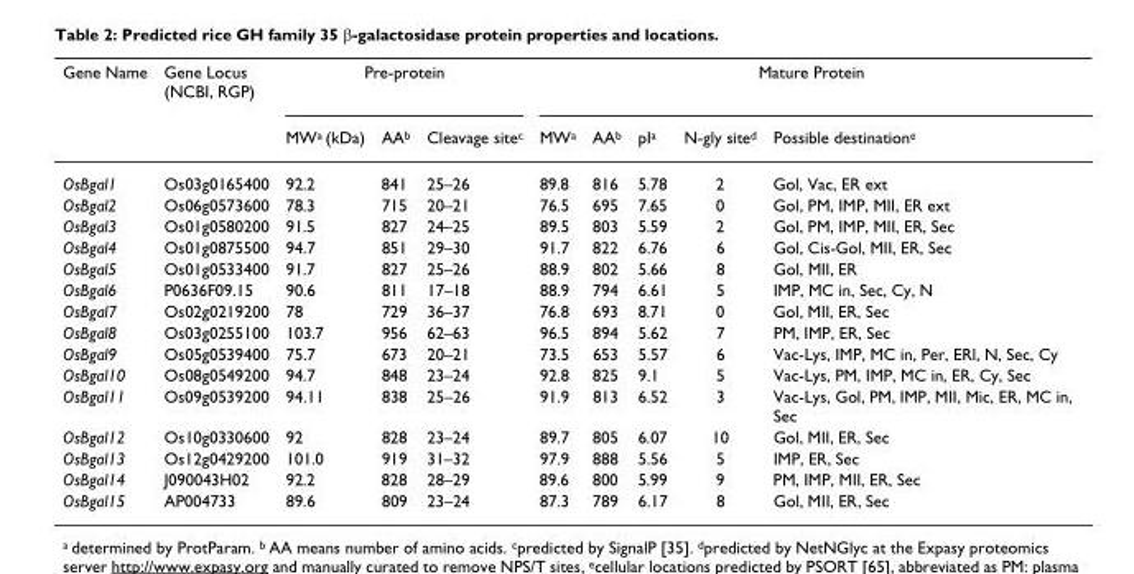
<table><thead><tr><td rowspan="2">Gene Name</td><td rowspan="2">Gene Locus (NCBI, RGP)</td><td colspan="3">Pre-protein</td><td colspan="5">Mature Protein</td></tr><tr><td>MW<sup>a</sup> (kDa)</td><td>AA<sup>b</sup></td><td>Cleavage site<sup>c</sup></td><td>MW<sup>a</sup></td><td>AA<sup>b</sup></td><td>pI<sup>a</sup></td><td>N-gly site<sup>d</sup></td><td>Possible destination<sup>e</sup></td></tr></thead><tbody><tr><td>OsBgal1</td><td>Os03g0165400</td><td>92.2</td><td>841</td><td>25–26</td><td>89.8</td><td>816</td><td>5.78</td><td>2</td><td>Gol, Vac, ER ext</td></tr><tr><td>OsBgal2</td><td>Os06g0573600</td><td>78.3</td><td>715</td><td>20–21</td><td>76.5</td><td>695</td><td>7.65</td><td>0</td><td>Gol, PM, IMP, MII, ER ext</td></tr><tr><td>OsBgal3</td><td>Os01g0580200</td><td>91.5</td><td>827</td><td>24–25</td><td>89.5</td><td>803</td><td>5.59</td><td>2</td><td>Gol, PM, IMP, MII, ER, Sec</td></tr><tr><td>OsBgal4</td><td>Os01g0875500</td><td>94.7</td><td>851</td><td>29–30</td><td>91.7</td><td>822</td><td>6.76</td><td>6</td><td>Gol, Cis-Gol, MII, ER, Sec</td></tr><tr><td>OsBgal5</td><td>Os01g0533400</td><td>91.7</td><td>827</td><td>25–26</td><td>88.9</td><td>802</td><td>5.66</td><td>8</td><td>Gol, MII, ER</td></tr><tr><td>OsBgal6</td><td>P0636F09.15</td><td>90.6</td><td>811</td><td>17–18</td><td>88.9</td><td>794</td><td>6.61</td><td>5</td><td>IMP, MC in, Sec, Cy, N</td></tr><tr><td>OsBgal7</td><td>Os02g0219200</td><td>78</td><td>729</td><td>36–37</td><td>76.8</td><td>693</td><td>8.71</td><td>0</td><td>Gol, MII, ER, Sec</td></tr><tr><td>OsBgal8</td><td>Os03g0255100</td><td>103.7</td><td>956</td><td>62–63</td><td>96.5</td><td>894</td><td>5.62</td><td>7</td><td>PM, IMP, ER, Sec</td></tr><tr><td>OsBgal9</td><td>Os05g0539400</td><td>75.7</td><td>673</td><td>20–21</td><td>73.5</td><td>653</td><td>5.57</td><td>6</td><td>Vac-Lys, IMP, MC in, Per, ERl, N, Sec, Cy</td></tr><tr><td>OsBgal10</td><td>Os08g0549200</td><td>94.7</td><td>848</td><td>23–24</td><td>92.8</td><td>825</td><td>9.1</td><td>5</td><td>Vac-Lys, PM, IMP, MC in, ER, Cy, Sec</td></tr><tr><td>OsBgal11</td><td>Os09g0539200</td><td>94.11</td><td>838</td><td>25–26</td><td>91.9</td><td>813</td><td>6.52</td><td>3</td><td>Vac-Lys, Gol, PM, IMP, MII, Mic, ER, MC in, Sec</td></tr><tr><td>OsBgal12</td><td>Os10g0330600</td><td>92</td><td>828</td><td>23–24</td><td>89.7</td><td>805</td><td>6.07</td><td>10</td><td>Gol, MII, ER, Sec</td></tr><tr><td>OsBgal13</td><td>Os12g0429200</td><td>101.0</td><td>919</td><td>31–32</td><td>97.9</td><td>888</td><td>5.56</td><td>5</td><td>IMP, ER, Sec</td></tr><tr><td>OsBgal14</td><td>J090043H02</td><td>92.2</td><td>828</td><td>28–29</td><td>89.6</td><td>800</td><td>5.99</td><td>9</td><td>PM, IMP, MII, ER, Sec</td></tr><tr><td>OsBgal15</td><td>AP004733</td><td>89.6</td><td>809</td><td>23–24</td><td>87.3</td><td>789</td><td>6.17</td><td>8</td><td>Gol, MII, ER, Sec</td></tr></tbody></table>